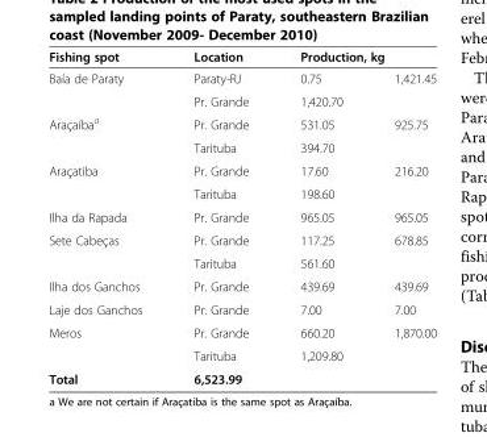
<table><thead><tr><td rowspan="2">Fishing spot Baía de Paraty</td><td rowspan="2">Location Paraty-RJ</td><td colspan="2">Production, kg</td></tr><tr><td>0.75</td><td>1,421.45</td></tr></thead><tbody><tr><td></td><td>Pr. Grande</td><td>1,420.70</td><td></td></tr><tr><td rowspan="2">Araçaíba<sup>a</sup></td><td>Pr. Grande</td><td>531.05</td><td>925.75</td></tr><tr><td>Tarituba</td><td>394.70</td><td></td></tr><tr><td rowspan="2">Araçatiba</td><td>Pr. Grande</td><td>17.60</td><td>216.20</td></tr><tr><td>Tarituba</td><td>198.60</td><td></td></tr><tr><td>Ilha da Rapada</td><td>Pr. Grande</td><td>965.05</td><td>965.05</td></tr><tr><td rowspan="2">Sete Cabeças</td><td>Pr. Grande</td><td>117.25</td><td>678.85</td></tr><tr><td>Tarituba</td><td>561.60</td><td></td></tr><tr><td>Ilha dos Ganchos</td><td>Pr. Grande</td><td>439.69</td><td>439.69</td></tr><tr><td>Laje dos Ganchos</td><td>Pr. Grande</td><td>7.00</td><td>7.00</td></tr><tr><td rowspan="2">Meros</td><td>Pr. Grande</td><td>660.20</td><td>1,870.00</td></tr><tr><td>Tarituba</td><td>1,209.80</td><td></td></tr><tr><td>Total</td><td>6,523.99</td><td></td><td></td></tr></tbody></table>